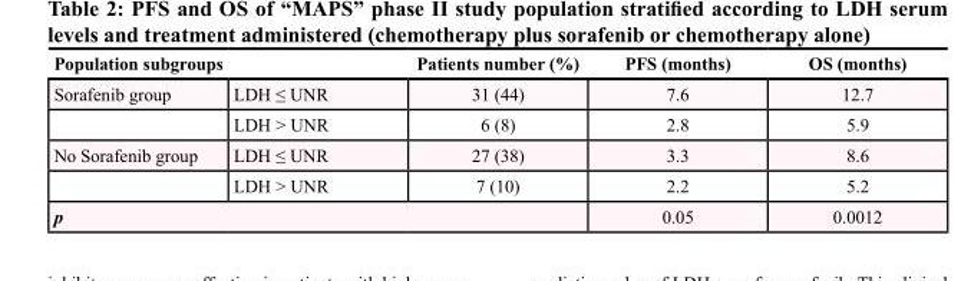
<table><thead><tr><td colspan="2">Population subgroups</td><td rowspan="2">Patients number (%) 31 (44)</td><td rowspan="2">PFS (months) 7.6</td><td rowspan="2">OS (months) 12.7</td></tr><tr><td>Sorafenib group</td><td>LDH ≤ UNR</td></tr></thead><tbody><tr><td></td><td>LDH &gt; UNR</td><td>6 (8)</td><td>2.8</td><td>5.9</td></tr><tr><td rowspan="2">No Sorafenib group</td><td>LDH ≤ UNR</td><td>27 (38)</td><td>3.3</td><td>8.6</td></tr><tr><td>LDH &gt; UNR</td><td>7 (10)</td><td>2.2</td><td>5.2</td></tr><tr><td colspan="3">p</td><td>0.05</td><td>0.0012</td></tr></tbody></table>